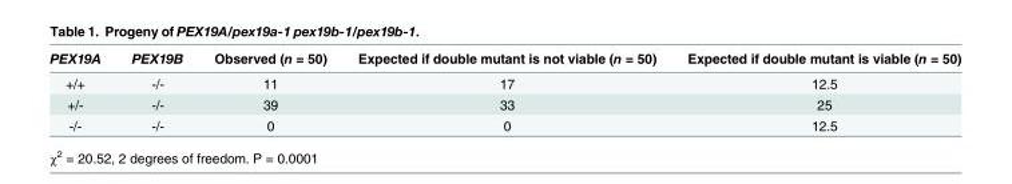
<table><thead><tr><td>PEX19A</td><td>PEX19B</td><td>Observed (n = 50)</td><td>Expected if double mutant is not viable (n = 50)</td><td>Expected if double mutant is viable (n = 50)</td></tr></thead><tbody><tr><td>+/+</td><td>-/-</td><td>11</td><td>17</td><td>12.5</td></tr><tr><td>+/-</td><td>-/-</td><td>39</td><td>33</td><td>25</td></tr><tr><td>-/-</td><td>-/-</td><td>0</td><td>0</td><td>12.5</td></tr></tbody></table>